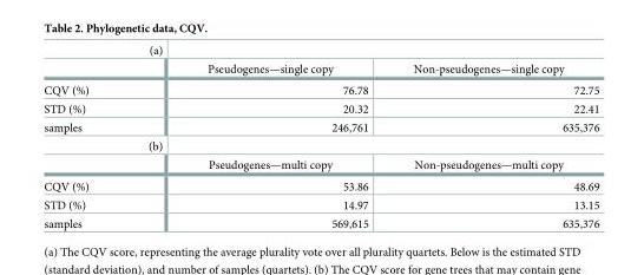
<table><tbody><tr><td colspan="3">(a)</td></tr><tr><td></td><td>Pseudogenes—single copy</td><td>Non-pseudogenes—single copy</td></tr><tr><td>CQV (%)</td><td>76.78</td><td>72.75</td></tr><tr><td>STD (%)</td><td>20.32</td><td>22.41</td></tr><tr><td>samples</td><td>246,761</td><td>635,376</td></tr><tr><td colspan="3">(b)</td></tr><tr><td></td><td>Pseudogenes—multi copy</td><td>Non-pseudogenes—multi copy</td></tr><tr><td>CQV (%)</td><td>53.86</td><td>48.69</td></tr><tr><td>STD (%)</td><td>14.97</td><td>13.15</td></tr><tr><td>samples</td><td>569,615</td><td>635,376</td></tr></tbody></table>